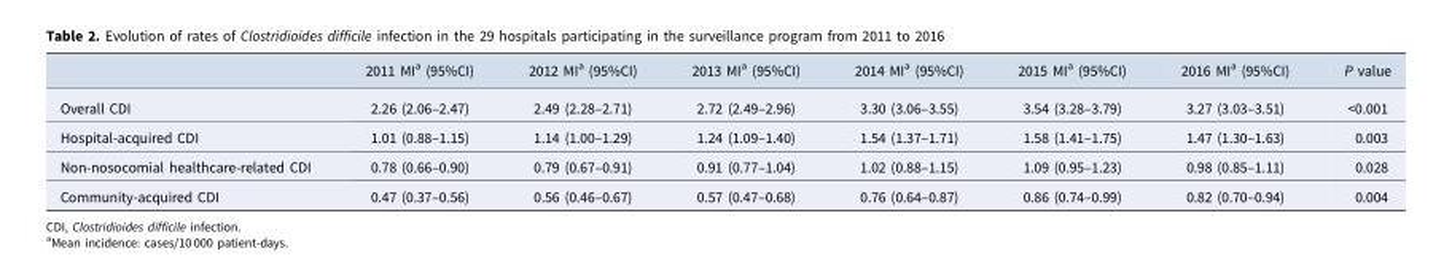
<table><thead><tr><td></td><td>2011 MI<sup>a</sup> (95%CI)</td><td>2012 MI<sup>a</sup> (95%CI)</td><td>2013 MI<sup>a</sup> (95%CI)</td><td>2014 MI<sup>a</sup> (95%CI)</td><td>2015 MI<sup>a</sup> (95%CI)</td><td>2016 MI<sup>a</sup> (95%CI)</td><td>P value</td></tr></thead><tbody><tr><td>Overall CDI</td><td>2.26 (2.06–2.47)</td><td>2.49 (2.28–2.71)</td><td>2.72 (2.49–2.96)</td><td>3.30 (3.06–3.55)</td><td>3.54 (3.28–3.79)</td><td>3.27 (3.03–3.51)</td><td>&lt;0.001</td></tr><tr><td>Hospital-acquired CDI</td><td>1.01 (0.88–1.15)</td><td>1.14 (1.00–1.29)</td><td>1.24 (1.09–1.40)</td><td>1.54 (1.37–1.71)</td><td>1.58 (1.41–1.75)</td><td>1.47 (1.30–1.63)</td><td>0.003</td></tr><tr><td>Non-nosocomial healthcare-related CDI</td><td>0.78 (0.66–0.90)</td><td>0.79 (0.67–0.91)</td><td>0.91 (0.77–1.04)</td><td>1.02 (0.88–1.15)</td><td>1.09 (0.95–1.23)</td><td>0.98 (0.85–1.11)</td><td>0.028</td></tr><tr><td>Community-acquired CDI</td><td>0.47 (0.37–0.56)</td><td>0.56 (0.46–0.67)</td><td>0.57 (0.47–0.68)</td><td>0.76 (0.64–0.87)</td><td>0.86 (0.74–0.99)</td><td>0.82 (0.70–0.94)</td><td>0.004</td></tr></tbody></table>